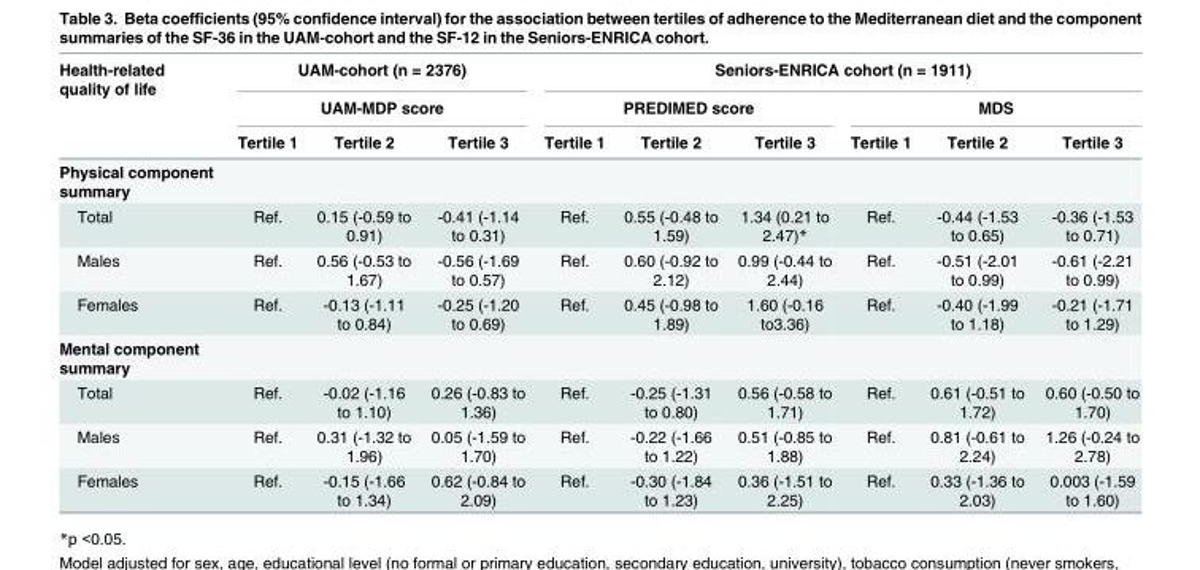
<table><thead><tr><td rowspan="3">Health-related quality of life</td><td rowspan="2" colspan="3">UAM-cohort (n = 2376) UAM-MDP score</td><td colspan="6">Seniors-ENRICA cohort (n = 1911)</td></tr><tr><td colspan="3">PREDIMED score</td><td colspan="3">MDS</td></tr><tr><td>Tertile 1</td><td>Tertile 2</td><td>Tertile 3</td><td>Tertile 1</td><td>Tertile 2</td><td>Tertile 3</td><td>Tertile 1</td><td>Tertile 2</td><td>Tertile 3</td></tr></thead><tbody><tr><td colspan="10">Physical component summary</td></tr><tr><td>Total</td><td>Ref.</td><td>0.15 (-0.59 to 0.91)</td><td>-0.41 (-1.14 to 0.31)</td><td>Ref.</td><td>0.55 (-0.48 to 1.59)</td><td>1.34 (0.21 to 2.47)*</td><td>Ref.</td><td>-0.44 (-1.53 to 0.65)</td><td>-0.36 (-1.53 to 0.71)</td></tr><tr><td>Males</td><td>Ref.</td><td>0.56 (-0.53 to 1.67)</td><td>-0.56 (-1.69 to 0.57)</td><td>Ref.</td><td>0.60 (-0.92 to 2.12)</td><td>0.99 (-0.44 to 2.44)</td><td>Ref.</td><td>-0.51 (-2.01 to 0.99)</td><td>-0.61 (-2.21 to 0.99)</td></tr><tr><td>Females</td><td>Ref.</td><td>-0.13 (-1.11 to 0.84)</td><td>-0.25 (-1.20 to 0.69)</td><td>Ref.</td><td>0.45 (-0.98 to 1.89)</td><td>1.60 (-0.16 to3.36)</td><td>Ref.</td><td>-0.40 (-1.99 to 1.18)</td><td>-0.21 (-1.71 to 1.29)</td></tr><tr><td colspan="10">Mental component summary</td></tr><tr><td>Total</td><td>Ref.</td><td>-0.02 (-1.16 to 1.10)</td><td>0.26 (-0.83 to 1.36)</td><td>Ref.</td><td>-0.25 (-1.31 to 0.80)</td><td>0.56 (-0.58 to 1.71)</td><td>Ref.</td><td>0.61 (-0.51 to 1.72)</td><td>0.60 (-0.50 to 1.70)</td></tr><tr><td>Males</td><td>Ref.</td><td>0.31 (-1.32 to 1.96)</td><td>0.05 (-1.59 to 1.70)</td><td>Ref.</td><td>-0.22 (-1.66 to 1.22)</td><td>0.51 (-0.85 to 1.88)</td><td>Ref.</td><td>0.81 (-0.61 to 2.24)</td><td>1.26 (-0.24 to 2.78)</td></tr><tr><td>Females</td><td>Ref.</td><td>-0.15 (-1.66 to 1.34)</td><td>0.62 (-0.84 to 2.09)</td><td>Ref.</td><td>-0.30 (-1.84 to 1.23)</td><td>0.36 (-1.51 to 2.25)</td><td>Ref.</td><td>0.33 (-1.36 to 2.03)</td><td>0.003 (-1.59 to 1.60)</td></tr></tbody></table>